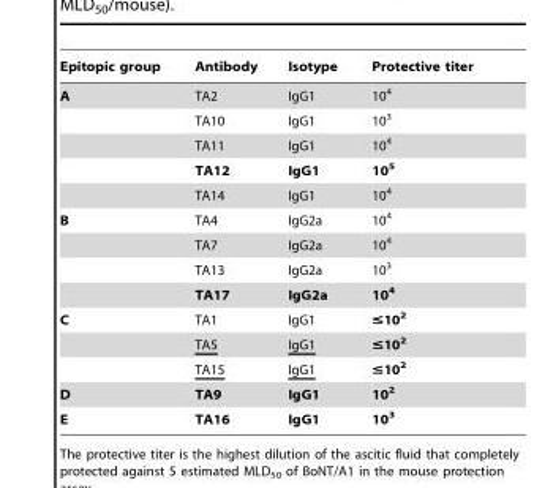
<table><thead><tr><td>Epitopic group</td><td>Antibody</td><td>Isotype</td><td>Protective titer</td></tr></thead><tbody><tr><td rowspan="5">A</td><td>TA2</td><td>IgG1</td><td>10<sup>4</sup></td></tr><tr><td>TA10</td><td>IgG1</td><td>10<sup>3</sup></td></tr><tr><td>TA11</td><td>IgG1</td><td>10<sup>4</sup></td></tr><tr><td>TA12</td><td>IgG1</td><td>10<sup>5</sup></td></tr><tr><td>TA14</td><td>IgG1</td><td>10<sup>4</sup></td></tr><tr><td rowspan="4">B</td><td>TA4</td><td>IgG2a</td><td>10<sup>4</sup></td></tr><tr><td>TA7</td><td>IgG2a</td><td>10<sup>4</sup></td></tr><tr><td>TA13</td><td>IgG2a</td><td>10<sup>3</sup></td></tr><tr><td>TA17</td><td>IgG2a</td><td>10<sup>4</sup></td></tr><tr><td rowspan="3">C</td><td>TA1</td><td>IgG1</td><td>≤10<sup>2</sup></td></tr><tr><td>TA5</td><td>IgG1</td><td>≤10<sup>2</sup></td></tr><tr><td>TA15</td><td>IgG1</td><td>≤10<sup>2</sup></td></tr><tr><td>D</td><td>TA9</td><td>IgG1</td><td>10<sup>2</sup></td></tr><tr><td>E</td><td>TA16</td><td>IgG1</td><td>10<sup>3</sup></td></tr></tbody></table>